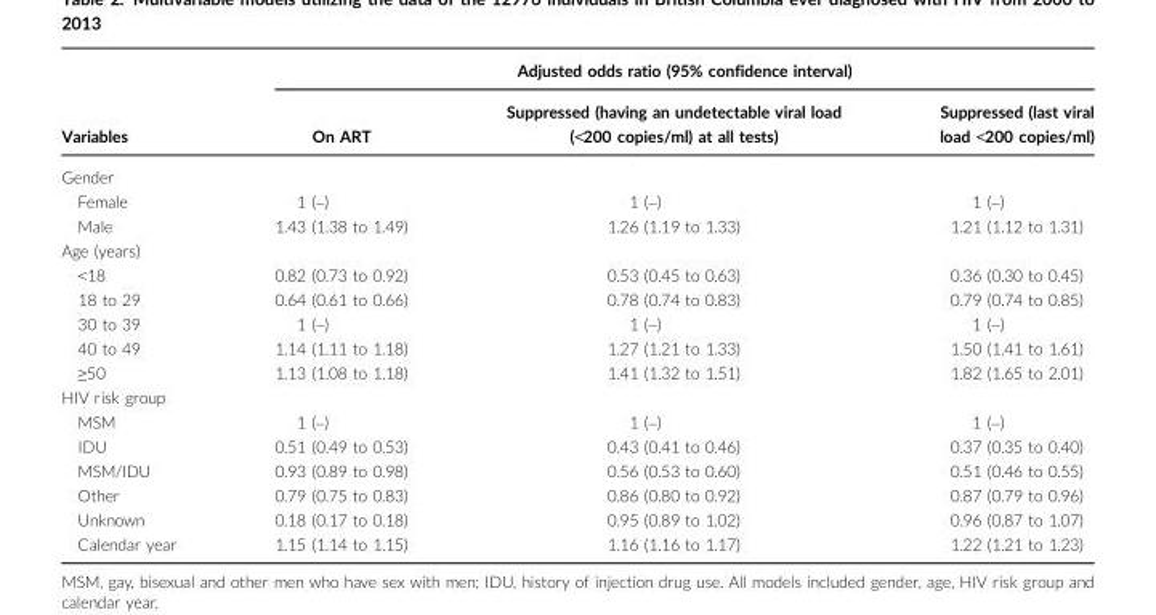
<table><thead><tr><td rowspan="2">Variables</td><td colspan="3">Adjusted odds ratio (95% confidence interval)</td></tr><tr><td>On ART</td><td>Suppressed (having an undetectable viral load (&lt;200 copies/ml) at all tests)</td><td>Suppressed (last viral load &lt;200 copies/ml)</td></tr></thead><tbody><tr><td colspan="4">Gender</td></tr><tr><td>Female</td><td>1 (–)</td><td>1 (–)</td><td>1 (–)</td></tr><tr><td>Male</td><td>1.43 (1.38 to 1.49)</td><td>1.26 (1.19 to 1.33)</td><td>1.21 (1.12 to 1.31)</td></tr><tr><td colspan="4">Age (years)</td></tr><tr><td>&lt;18</td><td>0.82 (0.73 to 0.92)</td><td>0.53 (0.45 to 0.63)</td><td>0.36 (0.30 to 0.45)</td></tr><tr><td>18 to 29</td><td>0.64 (0.61 to 0.66)</td><td>0.78 (0.74 to 0.83)</td><td>0.79 (0.74 to 0.85)</td></tr><tr><td>30 to 39</td><td>1 (–)</td><td>1 (–)</td><td>1 (–)</td></tr><tr><td>40 to 49</td><td>1.14 (1.11 to 1.18)</td><td>1.27 (1.21 to 1.33)</td><td>1.50 (1.41 to 1.61)</td></tr><tr><td>≥50</td><td>1.13 (1.08 to 1.18)</td><td>1.41 (1.32 to 1.51)</td><td>1.82 (1.65 to 2.01)</td></tr><tr><td colspan="4">HIV risk group</td></tr><tr><td>MSM</td><td>1 (–)</td><td>1 (–)</td><td>1 (–)</td></tr><tr><td>IDU</td><td>0.51 (0.49 to 0.53)</td><td>0.43 (0.41 to 0.46)</td><td>0.37 (0.35 to 0.40)</td></tr><tr><td>MSM/IDU</td><td>0.93 (0.89 to 0.98)</td><td>0.56 (0.53 to 0.60)</td><td>0.51 (0.46 to 0.55)</td></tr><tr><td>Other</td><td>0.79 (0.75 to 0.83)</td><td>0.86 (0.80 to 0.92)</td><td>0.87 (0.79 to 0.96)</td></tr><tr><td>Unknown</td><td>0.18 (0.17 to 0.18)</td><td>0.95 (0.89 to 1.02)</td><td>0.96 (0.87 to 1.07)</td></tr><tr><td>Calendar year</td><td>1.15 (1.14 to 1.15)</td><td>1.16 (1.16 to 1.17)</td><td>1.22 (1.21 to 1.23)</td></tr></tbody></table>